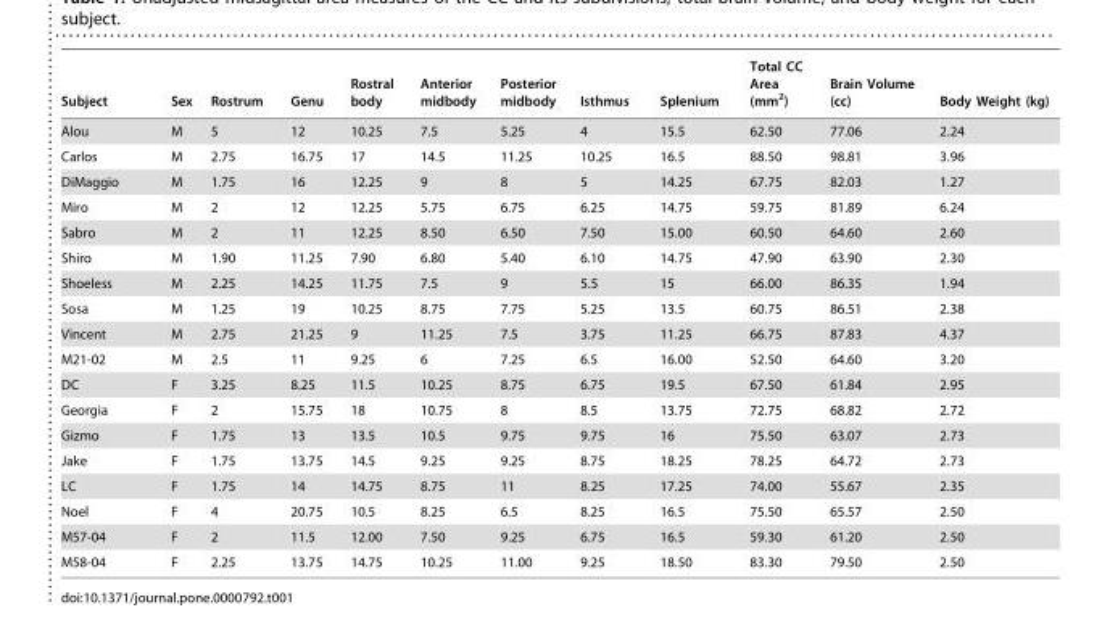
<table><thead><tr><td>Subject</td><td>Sex</td><td>Rostrum</td><td>Genu</td><td>Rostral body</td><td>Anterior midbody</td><td>Posterior midbody</td><td>Isthmus</td><td>Splenium</td><td>Total CC Area (mm<sup>2</sup>)</td><td>Brain Volume (cc)</td><td>Body Weight (kg)</td></tr></thead><tbody><tr><td>Alou</td><td>M</td><td>5</td><td>12</td><td>10.25</td><td>7.5</td><td>5.25</td><td>4</td><td>15.5</td><td>62.50</td><td>77.06</td><td>2.24</td></tr><tr><td>Carlos</td><td>M</td><td>2.75</td><td>16.75</td><td>17</td><td>14.5</td><td>11.25</td><td>10.25</td><td>16.5</td><td>88.50</td><td>98.81</td><td>3.96</td></tr><tr><td>DiMaggio</td><td>M</td><td>1.75</td><td>16</td><td>12.25</td><td>9</td><td>8</td><td>5</td><td>14.25</td><td>67.75</td><td>82.03</td><td>1.27</td></tr><tr><td>Miro</td><td>M</td><td>2</td><td>12</td><td>12.25</td><td>5.75</td><td>6.75</td><td>6.25</td><td>14.75</td><td>59.75</td><td>81.89</td><td>6.24</td></tr><tr><td>Sabro</td><td>M</td><td>2</td><td>11</td><td>12.25</td><td>8.50</td><td>6.50</td><td>7.50</td><td>15.00</td><td>60.50</td><td>64.60</td><td>2.60</td></tr><tr><td>Shiro</td><td>M</td><td>1.90</td><td>11.25</td><td>7.90</td><td>6.80</td><td>5.40</td><td>6.10</td><td>14.75</td><td>47.90</td><td>63.90</td><td>2.30</td></tr><tr><td>Shoeless</td><td>M</td><td>2.25</td><td>14.25</td><td>11.75</td><td>7.5</td><td>9</td><td>5.5</td><td>15</td><td>66.00</td><td>86.35</td><td>1.94</td></tr><tr><td>Sosa</td><td>M</td><td>1.25</td><td>19</td><td>10.25</td><td>8.75</td><td>7.75</td><td>5.25</td><td>13.5</td><td>60.75</td><td>86.51</td><td>2.38</td></tr><tr><td>Vincent</td><td>M</td><td>2.75</td><td>21.25</td><td>9</td><td>11.25</td><td>7.5</td><td>3.75</td><td>11.25</td><td>66.75</td><td>87.83</td><td>4.37</td></tr><tr><td>M21-02</td><td>M</td><td>2.5</td><td>11</td><td>9.25</td><td>6</td><td>7.25</td><td>6.5</td><td>16.00</td><td>52.50</td><td>64.60</td><td>3.20</td></tr><tr><td>DC</td><td>F</td><td>3.25</td><td>8.25</td><td>11.5</td><td>10.25</td><td>8.75</td><td>6.75</td><td>19.5</td><td>67.50</td><td>61.84</td><td>2.95</td></tr><tr><td>Georgia</td><td>F</td><td>2</td><td>15.75</td><td>18</td><td>10.75</td><td>8</td><td>8.5</td><td>13.75</td><td>72.75</td><td>68.82</td><td>2.72</td></tr><tr><td>Gizmo</td><td>F</td><td>1.75</td><td>13</td><td>13.5</td><td>10.5</td><td>9.75</td><td>9.75</td><td>16</td><td>75.50</td><td>63.07</td><td>2.73</td></tr><tr><td>Jake</td><td>F</td><td>1.75</td><td>13.75</td><td>14.5</td><td>9.25</td><td>9.25</td><td>8.75</td><td>18.25</td><td>78.25</td><td>64.72</td><td>2.73</td></tr><tr><td>LC</td><td>F</td><td>1.75</td><td>14</td><td>14.75</td><td>8.75</td><td>11</td><td>8.25</td><td>17.25</td><td>74.00</td><td>55.67</td><td>2.35</td></tr><tr><td>Noel</td><td>F</td><td>4</td><td>20.75</td><td>10.5</td><td>8.25</td><td>6.5</td><td>8.25</td><td>16.5</td><td>75.50</td><td>65.57</td><td>2.50</td></tr><tr><td>M57-04</td><td>F</td><td>2</td><td>11.5</td><td>12.00</td><td>7.50</td><td>9.25</td><td>6.75</td><td>16.5</td><td>59.30</td><td>61.20</td><td>2.50</td></tr><tr><td>M58-04</td><td>F</td><td>2.25</td><td>13.75</td><td>14.75</td><td>10.25</td><td>11.00</td><td>9.25</td><td>18.50</td><td>83.30</td><td>79.50</td><td>2.50</td></tr></tbody></table>